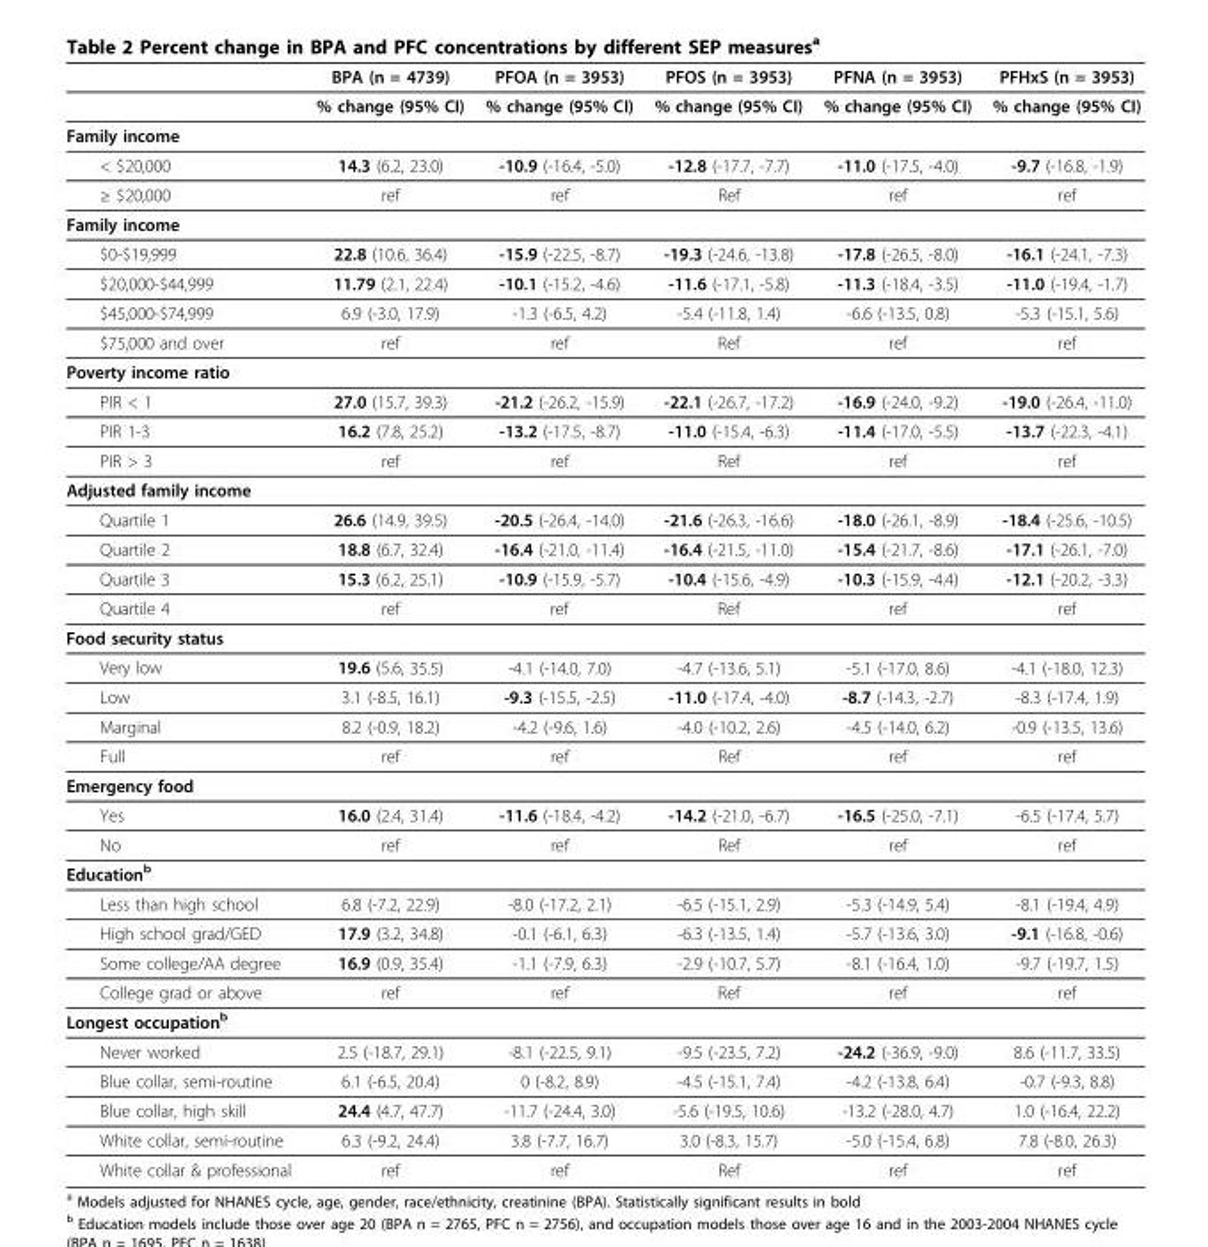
<table><thead><tr><td></td><td>BPA (n = 4739)</td><td>PFOA (n = 3953)</td><td>PFOS (n = 3953)</td><td>PFNA (n = 3953)</td><td>PFHxS (n = 3953)</td></tr></thead><tbody><tr><td></td><td>% change (95% CI)</td><td>% change (95% CI)</td><td>% change (95% CI)</td><td>% change (95% CI)</td><td>% change (95% CI)</td></tr><tr><td colspan="6">Family income</td></tr><tr><td>&lt; $20,000</td><td>14.3 (6.2, 23.0)</td><td>-10.9 (-16.4, -5.0)</td><td>-12.8 (-17.7, -7.7)</td><td>-11.0 (-17.5, -4.0)</td><td>-9.7 (-16.8, -1.9)</td></tr><tr><td>≥ $20,000</td><td>ref</td><td>ref</td><td>Ref</td><td>ref</td><td>ref</td></tr><tr><td colspan="6">Family income</td></tr><tr><td>$0-$19,999</td><td>22.8 (10.6, 36.4)</td><td>-15.9 (-22.5, -8.7)</td><td>-19.3 (-24.6, -13.8)</td><td>-17.8 (-26.5, -8.0)</td><td>-16.1 (-24.1, -7.3)</td></tr><tr><td>$20,000-$44,999</td><td>11.79 (2.1, 22.4)</td><td>-10.1 (-15.2, -4.6)</td><td>-11.6 (-17.1, -5.8)</td><td>-11.3 (-18.4, -3.5)</td><td>-11.0 (-19.4, -1.7)</td></tr><tr><td>$45,000-$74,999</td><td>6.9 (-3.0, 17.9)</td><td>-1.3 (-6.5, 4.2)</td><td>-5.4 (-11.8, 1.4)</td><td>-6.6 (-13.5, 0.8)</td><td>-5.3 (-15.1, 5.6)</td></tr><tr><td>$75,000 and over</td><td>ref</td><td>ref</td><td>Ref</td><td>ref</td><td>ref</td></tr><tr><td colspan="6">Poverty income ratio</td></tr><tr><td>PIR &lt; 1</td><td>27.0 (15.7, 39.3)</td><td>-21.2 (-26.2, -15.9)</td><td>-22.1 (-26.7, -17.2)</td><td>-16.9 (-24.0, -9.2)</td><td>-19.0 (-26.4, -11.0)</td></tr><tr><td>PIR 1-3</td><td>16.2 (7.8, 25.2)</td><td>-13.2 (-17.5, -8.7)</td><td>-11.0 (-15.4, -6.3)</td><td>-11.4 (-17.0, -5.5)</td><td>-13.7 (-22.3, -4.1)</td></tr><tr><td>PIR &gt; 3</td><td>ref</td><td>ref</td><td>Ref</td><td>ref</td><td>ref</td></tr><tr><td colspan="6">Adjusted family income</td></tr><tr><td>Quartile 1</td><td>26.6 (14.9, 39.5)</td><td>-20.5 (-26.4, -14.0)</td><td>-21.6 (-26.3, -16.6)</td><td>-18.0 (-26.1, -8.9)</td><td>-18.4 (-25.6, -10.5)</td></tr><tr><td>Quartile 2</td><td>18.8 (6.7, 32.4)</td><td>-16.4 (-21.0, -11.4)</td><td>-16.4 (-21.5, -11.0)</td><td>-15.4 (-21.7, -8.6)</td><td>-17.1 (-26.1, -7.0)</td></tr><tr><td>Quartile 3</td><td>15.3 (6.2, 25.1)</td><td>-10.9 (-15.9, -5.7)</td><td>-10.4 (-15.6, -4.9)</td><td>-10.3 (-15.9, -4.4)</td><td>-12.1 (-20.2, -3.3)</td></tr><tr><td>Quartile 4</td><td>ref</td><td>ref</td><td>Ref</td><td>ref</td><td>ref</td></tr><tr><td colspan="6">Food security status</td></tr><tr><td>Very low</td><td>19.6 (5.6, 35.5)</td><td>-4.1 (-14.0, 7.0)</td><td>-4.7 (-13.6, 5.1)</td><td>-5.1 (-17.0, 8.6)</td><td>-4.1 (-18.0, 12.3)</td></tr><tr><td>Low</td><td>3.1 (-8.5, 16.1)</td><td>-9.3 (-15.5, -2.5)</td><td>-11.0 (-17.4, -4.0)</td><td>-8.7 (-14.3, -2.7)</td><td>-8.3 (-17.4, 1.9)</td></tr><tr><td>Marginal</td><td>8.2 (-0.9, 18.2)</td><td>-4.2 (-9.6, 1.6)</td><td>-4.0 (-10.2, 2.6)</td><td>-4.5 (-14.0, 6.2)</td><td>-0.9 (-13.5, 13.6)</td></tr><tr><td>Full</td><td>ref</td><td>ref</td><td>Ref</td><td>ref</td><td>ref</td></tr><tr><td colspan="6">Emergency food</td></tr><tr><td>Yes</td><td>16.0 (2.4, 31.4)</td><td>-11.6 (-18.4, -4.2)</td><td>-14.2 (-21.0, -6.7)</td><td>-16.5 (-25.0, -7.1)</td><td>-6.5 (-17.4, 5.7)</td></tr><tr><td>No</td><td>ref</td><td>ref</td><td>Ref</td><td>ref</td><td>ref</td></tr><tr><td colspan="6">Education<sup>b</sup></td></tr><tr><td>Less than high school</td><td>6.8 (-7.2, 22.9)</td><td>-8.0 (-17.2, 2.1)</td><td>-6.5 (-15.1, 2.9)</td><td>-5.3 (-14.9, 5.4)</td><td>-8.1 (-19.4, 4.9)</td></tr><tr><td>High school grad/GED</td><td>17.9 (3.2, 34.8)</td><td>-0.1 (-6.1, 6.3)</td><td>-6.3 (-13.5, 1.4)</td><td>-5.7 (-13.6, 3.0)</td><td>-9.1 (-16.8, -0.6)</td></tr><tr><td>Some college/AA degree</td><td>16.9 (0.9, 35.4)</td><td>-1.1 (-7.9, 6.3)</td><td>-2.9 (-10.7, 5.7)</td><td>-8.1 (-16.4, 1.0)</td><td>-9.7 (-19.7, 1.5)</td></tr><tr><td>College grad or above</td><td>ref</td><td>ref</td><td>Ref</td><td>ref</td><td>ref</td></tr><tr><td colspan="6">Longest occupation<sup>b</sup></td></tr><tr><td>Never worked</td><td>2.5 (-18.7, 29.1)</td><td>-8.1 (-22.5, 9.1)</td><td>-9.5 (-23.5, 7.2)</td><td>-24.2 (-36.9, -9.0)</td><td>8.6 (-11.7, 33.5)</td></tr><tr><td>Blue collar, semi-routine</td><td>6.1 (-6.5, 20.4)</td><td>0 (-8.2, 8.9)</td><td>-4.5 (-15.1, 7.4)</td><td>-4.2 (-13.8, 6.4)</td><td>-0.7 (-9.3, 8.8)</td></tr><tr><td>Blue collar, high skill</td><td>24.4 (4.7, 47.7)</td><td>-11.7 (-24.4, 3.0)</td><td>-5.6 (-19.5, 10.6)</td><td>-13.2 (-28.0, 4.7)</td><td>1.0 (-16.4, 22.2)</td></tr><tr><td>White collar, semi-routine</td><td>6.3 (-9.2, 24.4)</td><td>3.8 (-7.7, 16.7)</td><td>3.0 (-8.3, 15.7)</td><td>-5.0 (-15.4, 6.8)</td><td>7.8 (-8.0, 26.3)</td></tr><tr><td>White collar &amp; professional</td><td>ref</td><td>ref</td><td>Ref</td><td>ref</td><td>ref</td></tr></tbody></table>